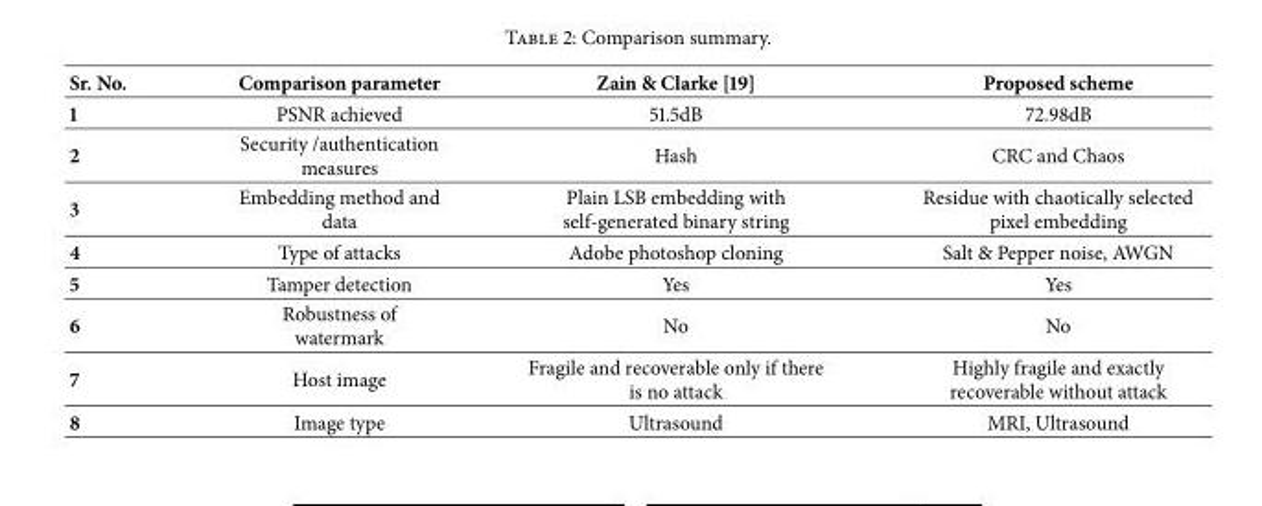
<table><thead><tr><td>Sr. No.</td><td>Comparison parameter</td><td>Zain &amp; Clarke [19]</td><td>Proposed scheme</td></tr></thead><tbody><tr><td>1</td><td>PSNR achieved</td><td>51.5dB</td><td>72.98dB</td></tr><tr><td>2</td><td>Security /authentication measures</td><td>Hash</td><td>CRC and Chaos</td></tr><tr><td>3</td><td>Embedding method and data</td><td>Plain LSB embedding with self-generated binary string</td><td>Residue with chaotically selected pixel embedding</td></tr><tr><td>4</td><td>Type of attacks</td><td>Adobe photoshop cloning</td><td>Salt &amp; Pepper noise, AWGN</td></tr><tr><td>5</td><td>Tamper detection</td><td>Yes</td><td>Yes</td></tr><tr><td>6</td><td>Robustness of watermark</td><td>No</td><td>No</td></tr><tr><td>7</td><td>Host image</td><td>Fragile and recoverable only if there is no attack</td><td>Highly fragile and exactly recoverable without attack</td></tr><tr><td>8</td><td>Image type</td><td>Ultrasound</td><td>MRI, Ultrasound</td></tr></tbody></table>